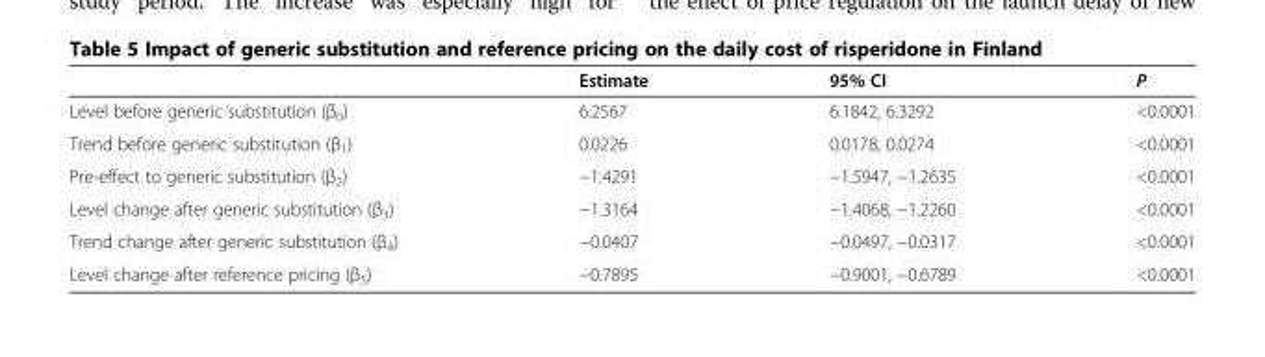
<table><thead><tr><td></td><td>Estimate</td><td>95% CI</td><td>P</td></tr></thead><tbody><tr><td>Level before generic substitution (β<sub>0</sub>)</td><td>6.2567</td><td>6.1842, 6.3292</td><td>&lt;0.0001</td></tr><tr><td>Trend before generic substitution (β<sub>1</sub>)</td><td>0.0226</td><td>0.0178, 0.0274</td><td>&lt;0.0001</td></tr><tr><td>Pre-effect to generic substitution (β<sub>2</sub>)</td><td>−1.4291</td><td>−1.5947, −1.2635</td><td>&lt;0.0001</td></tr><tr><td>Level change after generic substitution (β<sub>3</sub>)</td><td>−1.3164</td><td>−1.4068, −1.2260</td><td>&lt;0.0001</td></tr><tr><td>Trend change after generic substitution (β<sub>4</sub>)</td><td>−0.0407</td><td>−0.0497, −0.0317</td><td>&lt;0.0001</td></tr><tr><td>Level change after reference pricing (β<sub>5</sub>)</td><td>−0.7895</td><td>−0.9001, −0.6789</td><td>&lt;0.0001</td></tr></tbody></table>